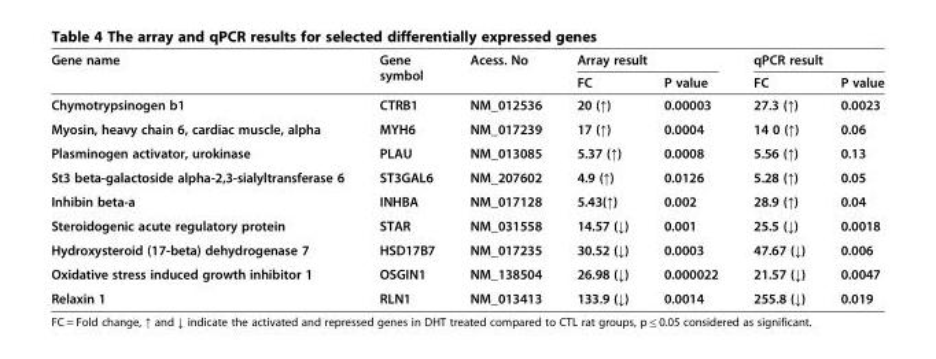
<table><thead><tr><td rowspan="2">Gene name</td><td rowspan="2">Gene symbol</td><td rowspan="2">Acess. No</td><td colspan="2">Array result</td><td colspan="2">qPCR result</td></tr><tr><td>FC</td><td>P value</td><td>FC</td><td>P value</td></tr></thead><tbody><tr><td>Chymotrypsinogen b1</td><td>CTRB1</td><td>NM_012536</td><td>20 (↑)</td><td>0.00003</td><td>27.3 (↑)</td><td>0.0023</td></tr><tr><td>Myosin, heavy chain 6, cardiac muscle, alpha</td><td>MYH6</td><td>NM_017239</td><td>17 (↑)</td><td>0.0004</td><td>14 0 (↑)</td><td>0.06</td></tr><tr><td>Plasminogen activator, urokinase</td><td>PLAU</td><td>NM_013085</td><td>5.37 (↑)</td><td>0.0008</td><td>5.56 (↑)</td><td>0.13</td></tr><tr><td>St3 beta-galactoside alpha-2,3-sialyltransferase 6</td><td>ST3GAL6</td><td>NM_207602</td><td>4.9 (↑)</td><td>0.0126</td><td>5.28 (↑)</td><td>0.05</td></tr><tr><td>Inhibin beta-a</td><td>INHBA</td><td>NM_017128</td><td>5.43(↑)</td><td>0.002</td><td>28.9 (↑)</td><td>0.04</td></tr><tr><td>Steroidogenic acute regulatory protein</td><td>STAR</td><td>NM_031558</td><td>14.57 (↓)</td><td>0.001</td><td>25.5 (↓)</td><td>0.0018</td></tr><tr><td>Hydroxysteroid (17-beta) dehydrogenase 7</td><td>HSD17B7</td><td>NM_017235</td><td>30.52 (↓)</td><td>0.0003</td><td>47.67 (↓)</td><td>0.006</td></tr><tr><td>Oxidative stress induced growth inhibitor 1</td><td>OSGIN1</td><td>NM_138504</td><td>26.98 (↓)</td><td>0.000022</td><td>21.57 (↓)</td><td>0.0047</td></tr><tr><td>Relaxin 1</td><td>RLN1</td><td>NM_013413</td><td>133.9 (↓)</td><td>0.0014</td><td>255.8 (↓)</td><td>0.019</td></tr></tbody></table>